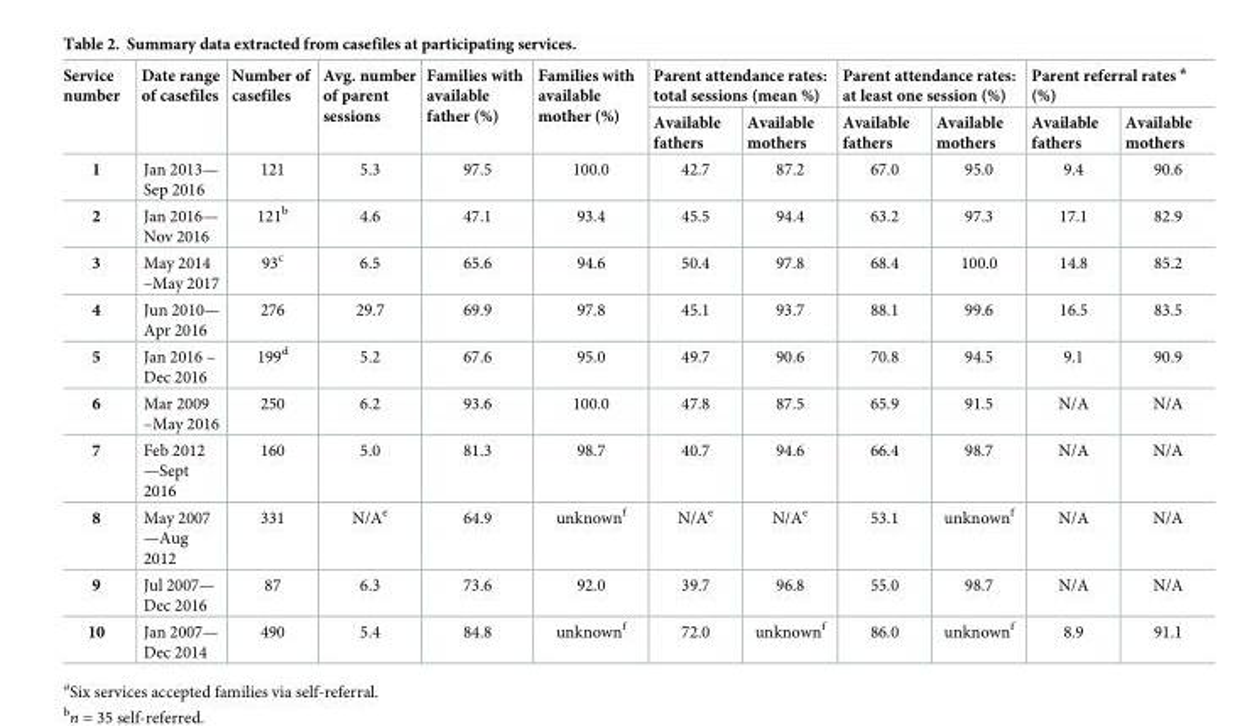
<table><thead><tr><td rowspan="2">Service number</td><td rowspan="2">Date range of casefiles</td><td rowspan="2">Number of casefiles</td><td rowspan="2">Avg. number of parent sessions</td><td rowspan="2">Families with available father (%)</td><td rowspan="2">Families with available mother (%)</td><td colspan="2">Parent attendance rates: total sessions (mean %)</td><td colspan="2">Parent attendance rates: at least one session (%)</td><td colspan="2">Parent referral rates <sup>a</sup> (%)</td></tr><tr><td>Available fathers</td><td>Available mothers</td><td>Available fathers</td><td>Available mothers</td><td>Available fathers</td><td>Available mothers</td></tr></thead><tbody><tr><td>1</td><td>Jan 2013— Sep 2016</td><td>121</td><td>5.3</td><td>97.5</td><td>100.0</td><td>42.7</td><td>87.2</td><td>67.0</td><td>95.0</td><td>9.4</td><td>90.6</td></tr><tr><td>2</td><td>Jan 2016— Nov 2016</td><td>121<sup>b</sup></td><td>4.6</td><td>47.1</td><td>93.4</td><td>45.5</td><td>94.4</td><td>63.2</td><td>97.3</td><td>17.1</td><td>82.9</td></tr><tr><td>3</td><td>May 2014 –May 2017</td><td>93<sup>c</sup></td><td>6.5</td><td>65.6</td><td>94.6</td><td>50.4</td><td>97.8</td><td>68.4</td><td>100.0</td><td>14.8</td><td>85.2</td></tr><tr><td>4</td><td>Jun 2010— Apr 2016</td><td>276</td><td>29.7</td><td>69.9</td><td>97.8</td><td>45.1</td><td>93.7</td><td>88.1</td><td>99.6</td><td>16.5</td><td>83.5</td></tr><tr><td>5</td><td>Jan 2016 – Dec 2016</td><td>199<sup>d</sup></td><td>5.2</td><td>67.6</td><td>95.0</td><td>49.7</td><td>90.6</td><td>70.8</td><td>94.5</td><td>9.1</td><td>90.9</td></tr><tr><td>6</td><td>Mar 2009 –May 2016</td><td>250</td><td>6.2</td><td>93.6</td><td>100.0</td><td>47.8</td><td>87.5</td><td>65.9</td><td>91.5</td><td>N/A</td><td>N/A</td></tr><tr><td>7</td><td>Feb 2012 —Sept 2016</td><td>160</td><td>5.0</td><td>81.3</td><td>98.7</td><td>40.7</td><td>94.6</td><td>66.4</td><td>98.7</td><td>N/A</td><td>N/A</td></tr><tr><td>8</td><td>May 2007 —Aug 2012</td><td>331</td><td>N/A<sup>e</sup></td><td>64.9</td><td>unknown<sup>f</sup></td><td>N/A<sup>e</sup></td><td>N/A<sup>e</sup></td><td>53.1</td><td>unknown<sup>f</sup></td><td>N/A</td><td>N/A</td></tr><tr><td>9</td><td>Jul 2007— Dec 2016</td><td>87</td><td>6.3</td><td>73.6</td><td>92.0</td><td>39.7</td><td>96.8</td><td>55.0</td><td>98.7</td><td>N/A</td><td>N/A</td></tr><tr><td>10</td><td>Jan 2007— Dec 2014</td><td>490</td><td>5.4</td><td>84.8</td><td>unknown<sup>f</sup></td><td>72.0</td><td>unknown<sup>f</sup></td><td>86.0</td><td>unknown<sup>f</sup></td><td>8.9</td><td>91.1</td></tr></tbody></table>